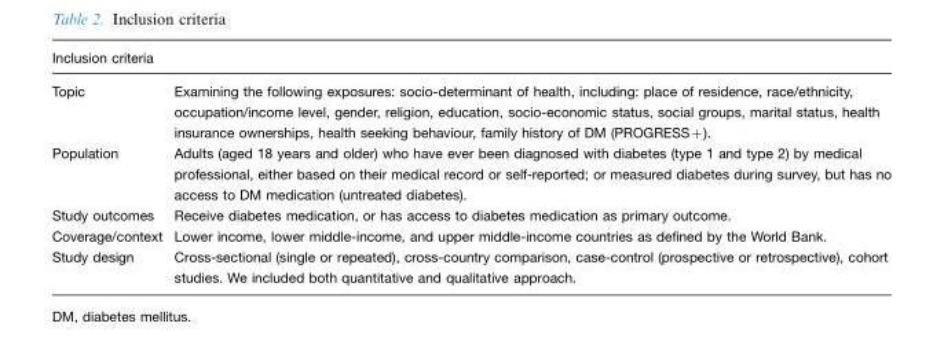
<table><thead><tr><td>Inclusion criteria</td><td></td></tr></thead><tbody><tr><td>Topic</td><td>Examining the following exposures: socio-determinant of health, including: place of residence, race/ethnicity, occupation/income level, gender, religion, education, socio-economic status, social groups, marital status, health insurance ownerships, health seeking behaviour, family history of DM (PROGRESS+).</td></tr><tr><td>Population</td><td>Adults (aged 18 years and older) who have ever been diagnosed with diabetes (type 1 and type 2) by medical professional, either based on their medical record or self-reported; or measured diabetes during survey, but has no access to DM medication (untreated diabetes).</td></tr><tr><td>Study outcomes</td><td>Receive diabetes medication, or has access to diabetes medication as primary outcome.</td></tr><tr><td>Coverage/context</td><td>Lower income, lower middle-income, and upper middle-income countries as defined by the World Bank.</td></tr><tr><td>Study design</td><td>Cross-sectional (single or repeated), cross-country comparison, case-control (prospective or retrospective), cohort studies. We included both quantitative and qualitative approach.</td></tr></tbody></table>